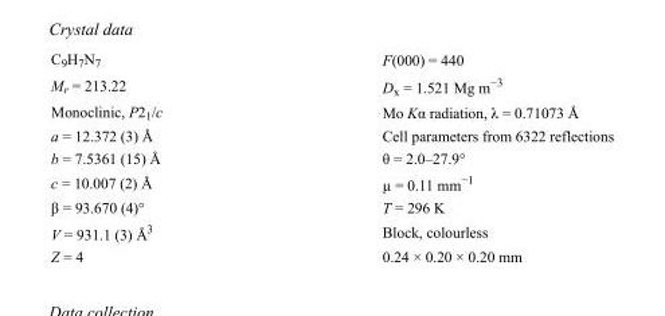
<table><tbody><tr><td>C<sub>9</sub>H<sub>7</sub>N<sub>7</sub></td><td>F(000) = 440</td></tr><tr><td>M<sub>r</sub> = 213.22</td><td>D<sub>x</sub> = 1.521 Mg m<sup>−3</sup></td></tr><tr><td>Monoclinic, P2<sub>1</sub>/c</td><td>Mo Kα radiation, λ = 0.71073 Å</td></tr><tr><td>a = 12.372 (3) Å</td><td>Cell parameters from 6322 reflections</td></tr><tr><td>b = 7.5361 (15) Å</td><td>θ = 2.0–27.9°</td></tr><tr><td>c = 10.007 (2) Å</td><td>µ = 0.11 mm<sup>−1</sup></td></tr><tr><td>β = 93.670 (4)°</td><td>T = 296 K</td></tr><tr><td>V = 931.1 (3) Å<sup>3</sup></td><td>Block, colourless</td></tr><tr><td>Z = 4</td><td>0.24 × 0.20 × 0.20 mm</td></tr></tbody></table>